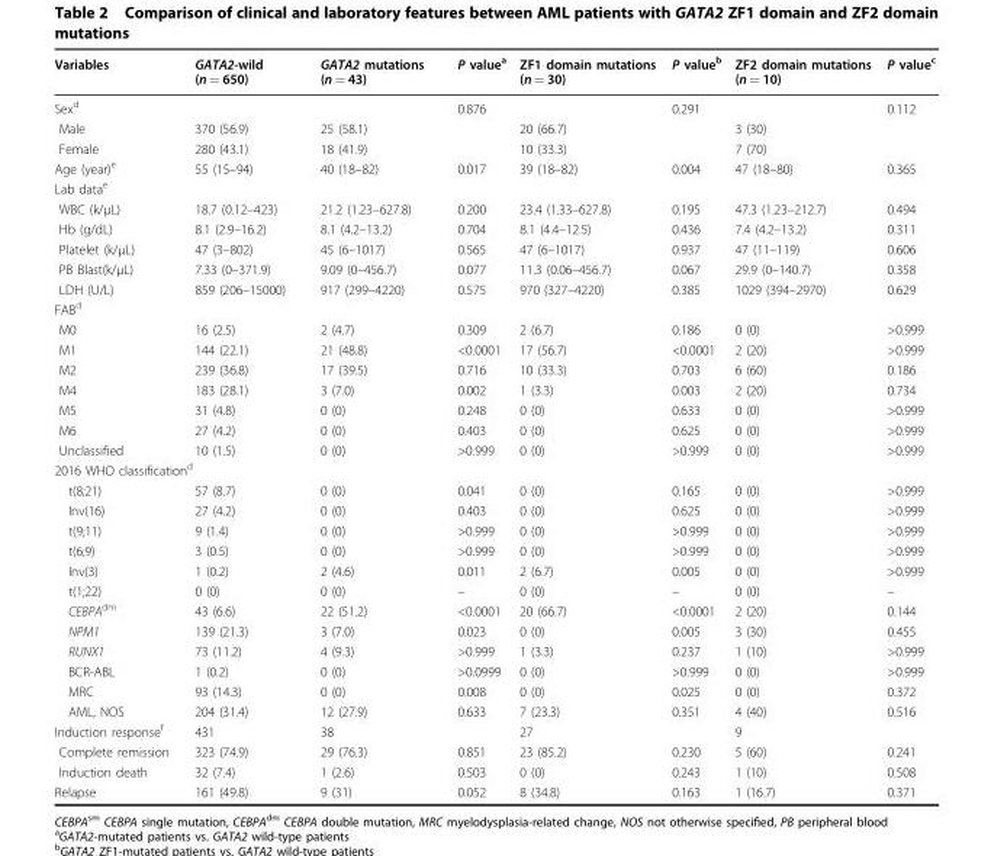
<table><thead><tr><td>Variables</td><td>GATA2-wild (n = 650)</td><td>GATA2 mutations (n = 43)</td><td>P value<sup>a</sup></td><td>ZF1 domain mutations (n = 30)</td><td>P value<sup>b</sup></td><td>ZF2 domain mutations (n = 10)</td><td>P value<sup>c</sup></td></tr></thead><tbody><tr><td>Sex<sup>d</sup></td><td></td><td></td><td>0.876</td><td></td><td>0.291</td><td></td><td>0.112</td></tr><tr><td>Male</td><td>370 (56.9)</td><td>25 (58.1)</td><td></td><td>20 (66.7)</td><td></td><td>3 (30)</td><td></td></tr><tr><td>Female</td><td>280 (43.1)</td><td>18 (41.9)</td><td></td><td>10 (33.3)</td><td></td><td>7 (70)</td><td></td></tr><tr><td>Age (year)<sup>e</sup></td><td>55 (15–94)</td><td>40 (18–82)</td><td>0.017</td><td>39 (18–82)</td><td>0.004</td><td>47 (18–80)</td><td>0.365</td></tr><tr><td colspan="8">Lab data<sup>e</sup></td></tr><tr><td>WBC (k/μL)</td><td>18.7 (0.12–423)</td><td>21.2 (1.23–627.8)</td><td>0.200</td><td>23.4 (1.33–627.8)</td><td>0.195</td><td>47.3 (1.23–212.7)</td><td>0.494</td></tr><tr><td>Hb (g/dL)</td><td>8.1 (2.9–16.2)</td><td>8.1 (4.2–13.2)</td><td>0.704</td><td>8.1 (4.4–12.5)</td><td>0.436</td><td>7.4 (4.2–13.2)</td><td>0.311</td></tr><tr><td>Platelet (k/μL)</td><td>47 (3–802)</td><td>45 (6–1017)</td><td>0.565</td><td>47 (6–1017)</td><td>0.937</td><td>47 (11–119)</td><td>0.606</td></tr><tr><td>PB Blast(k/μL)</td><td>7.33 (0–371.9)</td><td>9.09 (0–456.7)</td><td>0.077</td><td>11.3 (0.06–456.7)</td><td>0.067</td><td>29.9 (0–140.7)</td><td>0.358</td></tr><tr><td>LDH (U/L)</td><td>859 (206–15000)</td><td>917 (299–4220)</td><td>0.575</td><td>970 (327–4220)</td><td>0.385</td><td>1029 (394–2970)</td><td>0.629</td></tr><tr><td colspan="8">FAB<sup>d</sup></td></tr><tr><td>M0</td><td>16 (2.5)</td><td>2 (4.7)</td><td>0.309</td><td>2 (6.7)</td><td>0.186</td><td>0 (0)</td><td>&gt;0.999</td></tr><tr><td>M1</td><td>144 (22.1)</td><td>21 (48.8)</td><td>&lt;0.0001</td><td>17 (56.7)</td><td>&lt;0.0001</td><td>2 (20)</td><td>&gt;0.999</td></tr><tr><td>M2</td><td>239 (36.8)</td><td>17 (39.5)</td><td>0.716</td><td>10 (33.3)</td><td>0.703</td><td>6 (60)</td><td>0.186</td></tr><tr><td>M4</td><td>183 (28.1)</td><td>3 (7.0)</td><td>0.002</td><td>1 (3.3)</td><td>0.003</td><td>2 (20)</td><td>0.734</td></tr><tr><td>M5</td><td>31 (4.8)</td><td>0 (0)</td><td>0.248</td><td>0 (0)</td><td>0.633</td><td>0 (0)</td><td>&gt;0.999</td></tr><tr><td>M6</td><td>27 (4.2)</td><td>0 (0)</td><td>0.403</td><td>0 (0)</td><td>0.625</td><td>0 (0)</td><td>&gt;0.999</td></tr><tr><td>Unclassified</td><td>10 (1.5)</td><td>0 (0)</td><td>&gt;0.999</td><td>0 (0)</td><td>&gt;0.999</td><td>0 (0)</td><td>&gt;0.999</td></tr><tr><td colspan="8">2016 WHO classification<sup>d</sup></td></tr><tr><td>t(8;21)</td><td>57 (8.7)</td><td>0 (0)</td><td>0.041</td><td>0 (0)</td><td>0.165</td><td>0 (0)</td><td>&gt;0.999</td></tr><tr><td>Inv(16)</td><td>27 (4.2)</td><td>0 (0)</td><td>0.403</td><td>0 (0)</td><td>0.625</td><td>0 (0)</td><td>&gt;0.999</td></tr><tr><td>t(9;11)</td><td>9 (1.4)</td><td>0 (0)</td><td>&gt;0.999</td><td>0 (0)</td><td>&gt;0.999</td><td>0 (0)</td><td>&gt;0.999</td></tr><tr><td>t(6;9)</td><td>3 (0.5)</td><td>0 (0)</td><td>&gt;0.999</td><td>0 (0)</td><td>&gt;0.999</td><td>0 (0)</td><td>&gt;0.999</td></tr><tr><td>Inv(3)</td><td>1 (0.2)</td><td>2 (4.6)</td><td>0.011</td><td>2 (6.7)</td><td>0.005</td><td>0 (0)</td><td>&gt;0.999</td></tr><tr><td>t(1;22)</td><td>0 (0)</td><td>0 (0)</td><td>–</td><td>0 (0)</td><td>–</td><td>0 (0)</td><td>–</td></tr><tr><td>CEBPA<sup>dm</sup></td><td>43 (6.6)</td><td>22 (51.2)</td><td>&lt;0.0001</td><td>20 (66.7)</td><td>&lt;0.0001</td><td>2 (20)</td><td>0.144</td></tr><tr><td>NPM1</td><td>139 (21.3)</td><td>3 (7.0)</td><td>0.023</td><td>0 (0)</td><td>0.005</td><td>3 (30)</td><td>0.455</td></tr><tr><td>RUNX1</td><td>73 (11.2)</td><td>4 (9.3)</td><td>&gt;0.999</td><td>1 (3.3)</td><td>0.237</td><td>1 (10)</td><td>&gt;0.999</td></tr><tr><td>BCR-ABL</td><td>1 (0.2)</td><td>0 (0)</td><td>&gt;0.0999</td><td>0 (0)</td><td>&gt;0.999</td><td>0 (0)</td><td>&gt;0.999</td></tr><tr><td>MRC</td><td>93 (14.3)</td><td>0 (0)</td><td>0.008</td><td>0 (0)</td><td>0.025</td><td>0 (0)</td><td>0.372</td></tr><tr><td>AML, NOS</td><td>204 (31.4)</td><td>12 (27.9)</td><td>0.633</td><td>7 (23.3)</td><td>0.351</td><td>4 (40)</td><td>0.516</td></tr><tr><td>Induction response<sup>f</sup></td><td>431</td><td>38</td><td></td><td>27</td><td></td><td>9</td><td></td></tr><tr><td>Complete remission</td><td>323 (74.9)</td><td>29 (76.3)</td><td>0.851</td><td>23 (85.2)</td><td>0.230</td><td>5 (60)</td><td>0.241</td></tr><tr><td>Induction death</td><td>32 (7.4)</td><td>1 (2.6)</td><td>0.503</td><td>0 (0)</td><td>0.243</td><td>1 (10)</td><td>0.508</td></tr><tr><td>Relapse</td><td>161 (49.8)</td><td>9 (31)</td><td>0.052</td><td>8 (34.8)</td><td>0.163</td><td>1 (16.7)</td><td>0.371</td></tr></tbody></table>